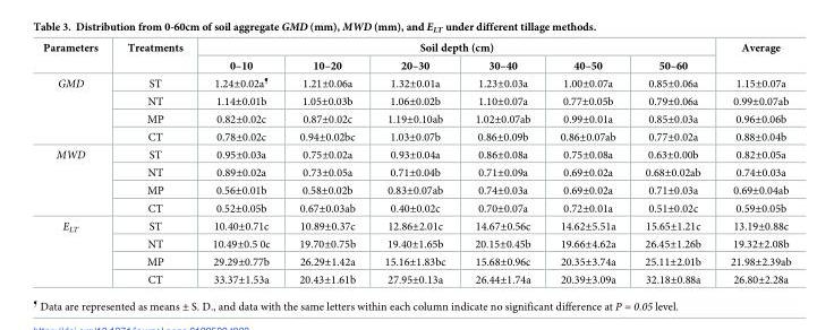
<table><thead><tr><td rowspan="2">Parameters</td><td rowspan="2">Treatments</td><td colspan="6">Soil depth (cm)</td><td rowspan="2">Average</td></tr><tr><td>0–10</td><td>10–20</td><td>20–30</td><td>30–40</td><td>40–50</td><td>50–60</td></tr></thead><tbody><tr><td rowspan="4">GMD</td><td>ST</td><td>1.24±0.02a<sup>¶</sup></td><td>1.21±0.06a</td><td>1.32±0.01a</td><td>1.23±0.03a</td><td>1.00±0.07a</td><td>0.85±0.06a</td><td>1.15±0.07a</td></tr><tr><td>NT</td><td>1.14±0.01b</td><td>1.05±0.03b</td><td>1.06±0.02b</td><td>1.10±0.07a</td><td>0.77±0.05b</td><td>0.79±0.06a</td><td>0.99±0.07ab</td></tr><tr><td>MP</td><td>0.82±0.02c</td><td>0.87±0.02c</td><td>1.19±0.10ab</td><td>1.02±0.07ab</td><td>0.99±0.01a</td><td>0.85±0.03a</td><td>0.96±0.06b</td></tr><tr><td>CT</td><td>0.78±0.02c</td><td>0.94±0.02bc</td><td>1.03±0.07b</td><td>0.86±0.09b</td><td>0.86±0.07ab</td><td>0.77±0.02a</td><td>0.88±0.04b</td></tr><tr><td rowspan="4">MWD</td><td>ST</td><td>0.95±0.03a</td><td>0.75±0.02a</td><td>0.93±0.04a</td><td>0.86±0.08a</td><td>0.75±0.08a</td><td>0.63±0.00b</td><td>0.82±0.05a</td></tr><tr><td>NT</td><td>0.89±0.02a</td><td>0.73±0.05a</td><td>0.71±0.04b</td><td>0.71±0.09a</td><td>0.69±0.02a</td><td>0.68±0.02ab</td><td>0.74±0.03a</td></tr><tr><td>MP</td><td>0.56±0.01b</td><td>0.58±0.02b</td><td>0.83±0.07ab</td><td>0.74±0.03a</td><td>0.69±0.02a</td><td>0.71±0.03a</td><td>0.69±0.04ab</td></tr><tr><td>CT</td><td>0.52±0.05b</td><td>0.67±0.03ab</td><td>0.40±0.02c</td><td>0.70±0.07a</td><td>0.72±0.01a</td><td>0.51±0.02c</td><td>0.59±0.05b</td></tr><tr><td rowspan="4">E<sub>LT</sub></td><td>ST</td><td>10.40±0.71c</td><td>10.89±0.37c</td><td>12.86±2.01c</td><td>14.67±0.56c</td><td>14.62±5.51a</td><td>15.65±1.21c</td><td>13.19±0.88c</td></tr><tr><td>NT</td><td>10.49±0.5 0c</td><td>19.70±0.75b</td><td>19.40±1.65b</td><td>20.15±0.45b</td><td>19.66±4.62a</td><td>26.45±1.26b</td><td>19.32±2.08b</td></tr><tr><td>MP</td><td>29.29±0.77b</td><td>26.29±1.42a</td><td>15.16±1.83bc</td><td>15.68±0.96c</td><td>20.35±3.74a</td><td>25.11±2.01b</td><td>21.98±2.39ab</td></tr><tr><td>CT</td><td>33.37±1.53a</td><td>20.43±1.61b</td><td>27.95±0.13a</td><td>26.44±1.74a</td><td>20.39±3.09a</td><td>32.18±0.88a</td><td>26.80±2.28a</td></tr></tbody></table>